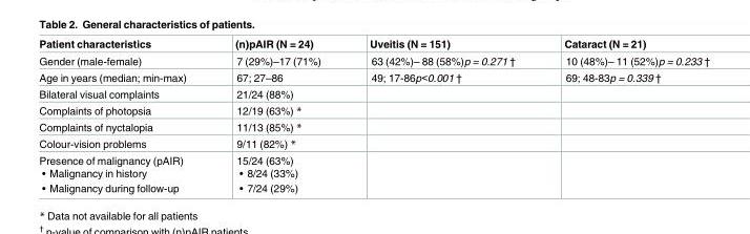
<table><thead><tr><td>Patient characteristics</td><td>(n)pAIR (N = 24)</td><td>Uveitis (N = 151)</td><td>Cataract (N = 21)</td></tr></thead><tbody><tr><td>Gender (male-female)</td><td>7 (29%)–17 (71%)</td><td>63 (42%)– 88 (58%)p = 0.271 †</td><td>10 (48%)– 11 (52%)p = 0.233 †</td></tr><tr><td>Age in years (median; min-max)</td><td>67; 27–86</td><td>49; 17-86p&lt;0.001 †</td><td>69; 48-83p = 0.339 †</td></tr><tr><td>Bilateral visual complaints</td><td>21/24 (88%)</td><td></td><td></td></tr><tr><td>Complaints of photopsia</td><td>12/19 (63%) *</td><td></td><td></td></tr><tr><td>Complaints of nyctalopia</td><td>11/13 (85%) *</td><td></td><td></td></tr><tr><td>Colour-vision problems</td><td>9/11 (82%) *</td><td></td><td></td></tr><tr><td>Presence of malignancy (pAIR) • Malignancy in history • Malignancy during follow-up</td><td>15/24 (63%) • 8/24 (33%) • 7/24 (29%)</td><td></td><td></td></tr></tbody></table>